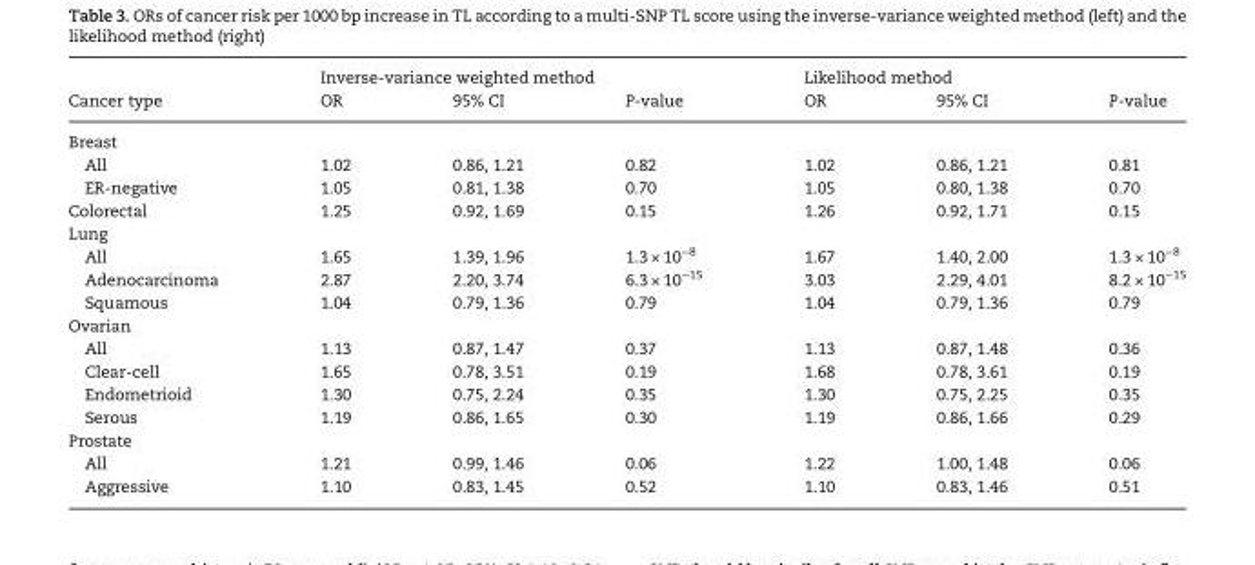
<table><thead><tr><td rowspan="2">Cancer type</td><td colspan="3">Inverse-variance weighted method</td><td colspan="3">Likelihood method</td></tr><tr><td>OR</td><td>95% CI</td><td>P-value</td><td>OR</td><td>95% CI</td><td>P-value</td></tr></thead><tbody><tr><td colspan="7">Breast</td></tr><tr><td>All</td><td>1.02</td><td>0.86, 1.21</td><td>0.82</td><td>1.02</td><td>0.86, 1.21</td><td>0.81</td></tr><tr><td>ER-negative</td><td>1.05</td><td>0.81, 1.38</td><td>0.70</td><td>1.05</td><td>0.80, 1.38</td><td>0.70</td></tr><tr><td>Colorectal</td><td>1.25</td><td>0.92, 1.69</td><td>0.15</td><td>1.26</td><td>0.92, 1.71</td><td>0.15</td></tr><tr><td colspan="7">Lung</td></tr><tr><td>All</td><td>1.65</td><td>1.39, 1.96</td><td>1.3 × 10<sup>−8</sup></td><td>1.67</td><td>1.40, 2.00</td><td>1.3 × 10<sup>−8</sup></td></tr><tr><td>Adenocarcinoma</td><td>2.87</td><td>2.20, 3.74</td><td>6.3 × 10<sup>−15</sup></td><td>3.03</td><td>2.29, 4.01</td><td>8.2 × 10<sup>−15</sup></td></tr><tr><td>Squamous</td><td>1.04</td><td>0.79, 1.36</td><td>0.79</td><td>1.04</td><td>0.79, 1.36</td><td>0.79</td></tr><tr><td colspan="7">Ovarian</td></tr><tr><td>All</td><td>1.13</td><td>0.87, 1.47</td><td>0.37</td><td>1.13</td><td>0.87, 1.48</td><td>0.36</td></tr><tr><td>Clear-cell</td><td>1.65</td><td>0.78, 3.51</td><td>0.19</td><td>1.68</td><td>0.78, 3.61</td><td>0.19</td></tr><tr><td>Endometrioid</td><td>1.30</td><td>0.75, 2.24</td><td>0.35</td><td>1.30</td><td>0.75, 2.25</td><td>0.35</td></tr><tr><td>Serous</td><td>1.19</td><td>0.86, 1.65</td><td>0.30</td><td>1.19</td><td>0.86, 1.66</td><td>0.29</td></tr><tr><td colspan="7">Prostate</td></tr><tr><td>All</td><td>1.21</td><td>0.99, 1.46</td><td>0.06</td><td>1.22</td><td>1.00, 1.48</td><td>0.06</td></tr><tr><td>Aggressive</td><td>1.10</td><td>0.83, 1.45</td><td>0.52</td><td>1.10</td><td>0.83, 1.46</td><td>0.51</td></tr></tbody></table>